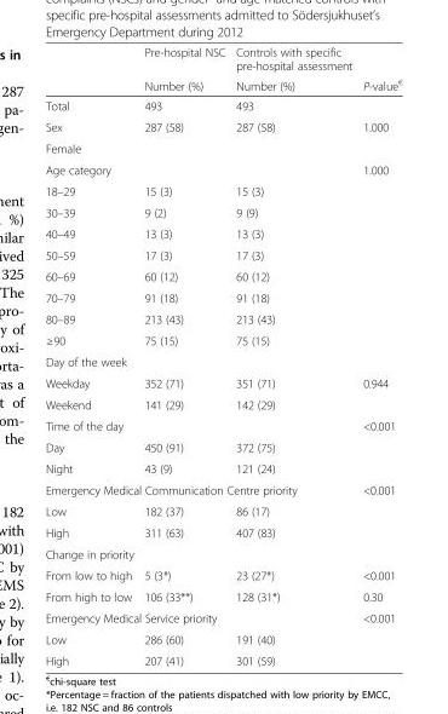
<table><thead><tr><td rowspan="2"></td><td rowspan="2">Pre-hospital NSC Number (%)</td><td rowspan="2">Controls with specific pre-hospital assessment Number (%)</td><td rowspan="2">P-value<sup>€</sup></td></tr><tr></tr></thead><tbody><tr><td>Total</td><td>493</td><td>493</td><td></td></tr><tr><td>Sex</td><td>287 (58)</td><td>287 (58)</td><td>1.000</td></tr><tr><td colspan="4">Female</td></tr><tr><td>Age category</td><td></td><td></td><td>1.000</td></tr><tr><td>18–29</td><td>15 (3)</td><td>15 (3)</td><td></td></tr><tr><td>30–39</td><td>9 (2)</td><td>9 (9)</td><td></td></tr><tr><td>40–49</td><td>13 (3)</td><td>13 (3)</td><td></td></tr><tr><td>50–59</td><td>17 (3)</td><td>17 (3)</td><td></td></tr><tr><td>60–69</td><td>60 (12)</td><td>60 (12)</td><td></td></tr><tr><td>70–79</td><td>91 (18)</td><td>91 (18)</td><td></td></tr><tr><td>80–89</td><td>213 (43)</td><td>213 (43)</td><td></td></tr><tr><td>≥90</td><td>75 (15)</td><td>75 (15)</td><td></td></tr><tr><td colspan="4">Day of the week</td></tr><tr><td>Weekday</td><td>352 (71)</td><td>351 (71)</td><td>0.944</td></tr><tr><td>Weekend</td><td>141 (29)</td><td>142 (29)</td><td></td></tr><tr><td>Time of the day</td><td></td><td></td><td>&lt;0.001</td></tr><tr><td>Day</td><td>450 (91)</td><td>372 (75)</td><td></td></tr><tr><td>Night</td><td>43 (9)</td><td>121 (24)</td><td></td></tr><tr><td colspan="3">Emergency Medical Communication Centre priority</td><td>&lt;0.001</td></tr><tr><td>Low</td><td>182 (37)</td><td>86 (17)</td><td></td></tr><tr><td>High</td><td>311 (63)</td><td>407 (83)</td><td></td></tr><tr><td colspan="4">Change in priority</td></tr><tr><td>From low to high</td><td>5 (3*)</td><td>23 (27*)</td><td>&lt;0.001</td></tr><tr><td>From high to low</td><td>106 (33**)</td><td>128 (31*)</td><td>0.30</td></tr><tr><td colspan="3">Emergency Medical Service priority</td><td>&lt;0.001</td></tr><tr><td>Low</td><td>286 (60)</td><td>191 (40)</td><td></td></tr><tr><td>High</td><td>207 (41)</td><td>301 (59)</td><td></td></tr></tbody></table>